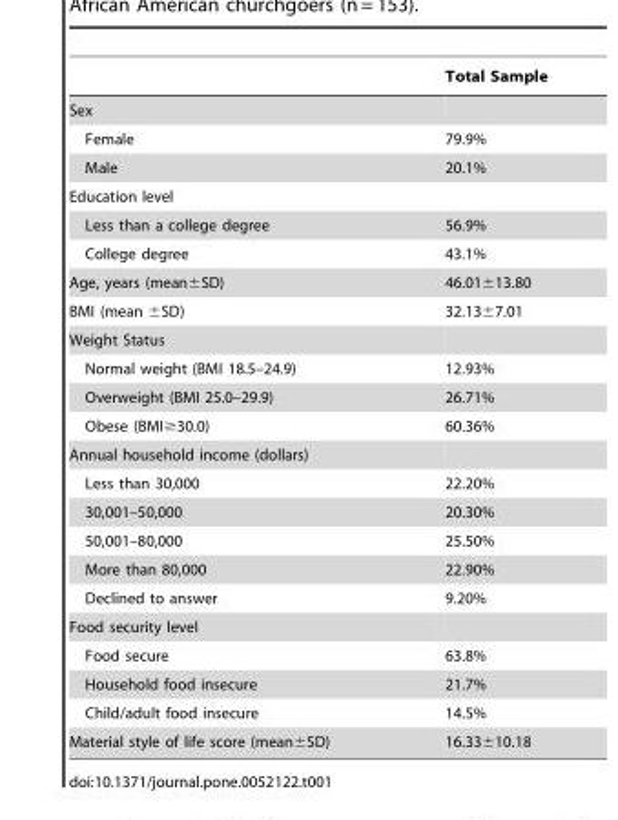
<table><thead><tr><td></td><td>Total Sample</td></tr></thead><tbody><tr><td colspan="2">Sex</td></tr><tr><td>Female</td><td>79.9%</td></tr><tr><td>Male</td><td>20.1%</td></tr><tr><td colspan="2">Education level</td></tr><tr><td>Less than a college degree</td><td>56.9%</td></tr><tr><td>College degree</td><td>43.1%</td></tr><tr><td>Age, years (mean±SD)</td><td>46.01±13.80</td></tr><tr><td>BMI (mean ±SD)</td><td>32.13±7.01</td></tr><tr><td colspan="2">Weight Status</td></tr><tr><td>Normal weight (BMI 18.5–24.9)</td><td>12.93%</td></tr><tr><td>Overweight (BMI 25.0–29.9)</td><td>26.71%</td></tr><tr><td>Obese (BMI≥30.0)</td><td>60.36%</td></tr><tr><td colspan="2">Annual household income (dollars)</td></tr><tr><td>Less than 30,000</td><td>22.20%</td></tr><tr><td>30,001–50,000</td><td>20.30%</td></tr><tr><td>50,001–80,000</td><td>25.50%</td></tr><tr><td>More than 80,000</td><td>22.90%</td></tr><tr><td>Declined to answer</td><td>9.20%</td></tr><tr><td colspan="2">Food security level</td></tr><tr><td>Food secure</td><td>63.8%</td></tr><tr><td>Household food insecure</td><td>21.7%</td></tr><tr><td>Child/adult food insecure</td><td>14.5%</td></tr><tr><td>Material style of life score (mean±SD)</td><td>16.33±10.18</td></tr></tbody></table>